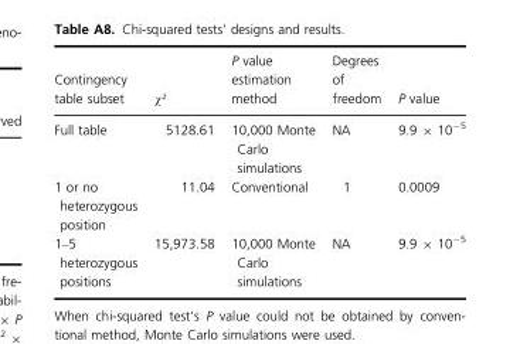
<table><thead><tr><td>Contingency table subset</td><td>χ²</td><td>P value estimation method</td><td>Degrees of freedom</td><td>P value</td></tr></thead><tbody><tr><td>Full table</td><td>5128.61</td><td>10,000 Monte Carlo simulations</td><td>NA</td><td>9.9 × 10<sup>−5</sup></td></tr><tr><td>1 or no heterozygous position</td><td>11.04</td><td>Conventional</td><td>1</td><td>0.0009</td></tr><tr><td>1–5 heterozygous positions</td><td>15,973.58</td><td>10,000 Monte Carlo simulations</td><td>NA</td><td>9.9 × 10<sup>−5</sup></td></tr></tbody></table>